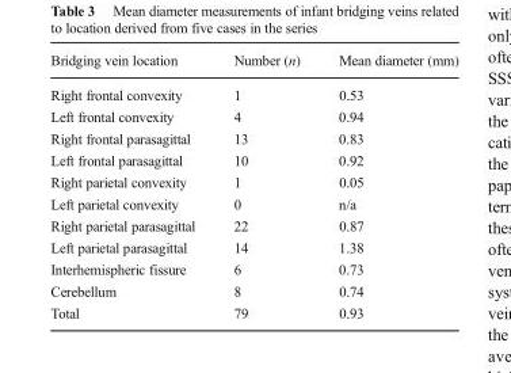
<table><thead><tr><td>Bridging vein location</td><td>Number (n)</td><td>Mean diameter (mm)</td></tr></thead><tbody><tr><td>Right frontal convexity</td><td>1</td><td>0.53</td></tr><tr><td>Left frontal convexity</td><td>4</td><td>0.94</td></tr><tr><td>Right frontal parasagittal</td><td>13</td><td>0.83</td></tr><tr><td>Left frontal parasagittal</td><td>10</td><td>0.92</td></tr><tr><td>Right parietal convexity</td><td>1</td><td>0.05</td></tr><tr><td>Left parietal convexity</td><td>0</td><td>n/a</td></tr><tr><td>Right parietal parasagittal</td><td>22</td><td>0.87</td></tr><tr><td>Left parietal parasagittal</td><td>14</td><td>1.38</td></tr><tr><td>Interhemispheric fissure</td><td>6</td><td>0.73</td></tr><tr><td>Cerebellum</td><td>8</td><td>0.74</td></tr><tr><td>Total</td><td>79</td><td>0.93</td></tr></tbody></table>